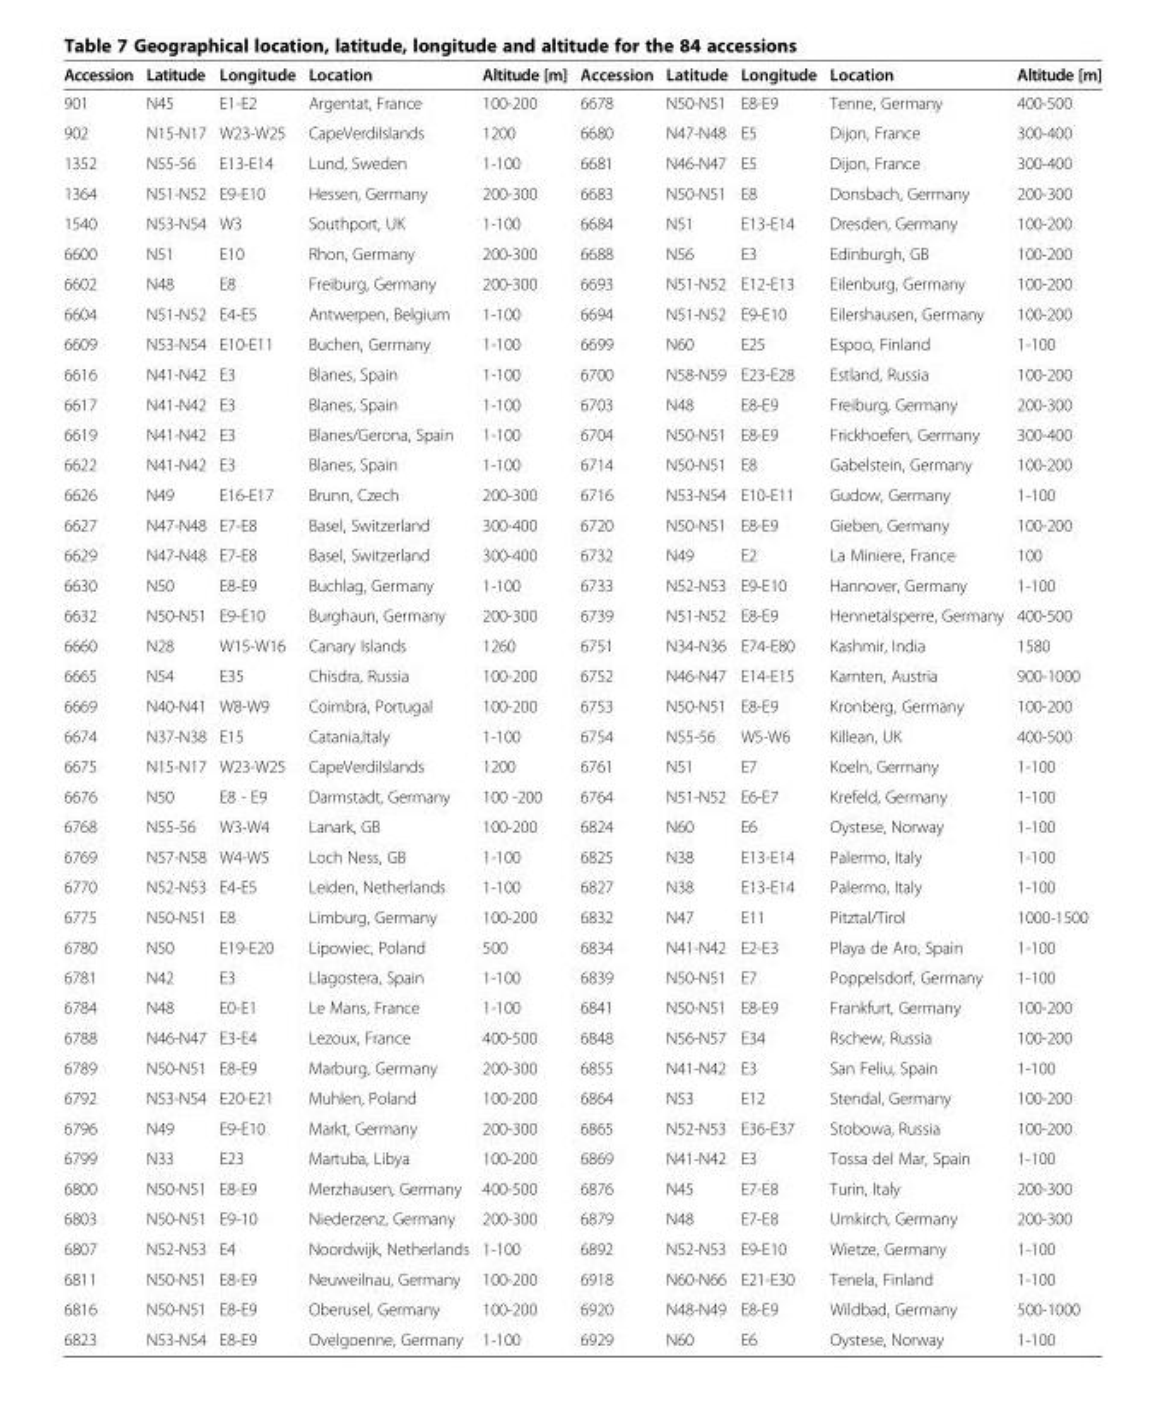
<table><thead><tr><td>Accession</td><td>Latitude</td><td>Longitude</td><td>Location</td><td>Altitude [m]</td><td>Accession</td><td>Latitude</td><td>Longitude</td><td>Location</td><td>Altitude [m]</td></tr></thead><tbody><tr><td>901</td><td>N45</td><td>E1-E2</td><td>Argentat, France</td><td>100-200</td><td>6678</td><td>N50-N51</td><td>E8-E9</td><td>Tenne, Germany</td><td>400-500</td></tr><tr><td>902</td><td>N15-N17</td><td>W23-W25</td><td>CapeVerdiIslands</td><td>1200</td><td>6680</td><td>N47-N48</td><td>E5</td><td>Dijon, France</td><td>300-400</td></tr><tr><td>1352</td><td>N55-56</td><td>E13-E14</td><td>Lund, Sweden</td><td>1-100</td><td>6681</td><td>N46-N47</td><td>E5</td><td>Dijon, France</td><td>300-400</td></tr><tr><td>1364</td><td>N51-N52</td><td>E9-E10</td><td>Hessen, Germany</td><td>200-300</td><td>6683</td><td>N50-N51</td><td>E8</td><td>Donsbach, Germany</td><td>200-300</td></tr><tr><td>1540</td><td>N53-N54</td><td>W3</td><td>Southport, UK</td><td>1-100</td><td>6684</td><td>N51</td><td>E13-E14</td><td>Dresden, Germany</td><td>100-200</td></tr><tr><td>6600</td><td>N51</td><td>E10</td><td>Rhon, Germany</td><td>200-300</td><td>6688</td><td>N56</td><td>E3</td><td>Edinburgh, GB</td><td>100-200</td></tr><tr><td>6602</td><td>N48</td><td>E8</td><td>Freiburg, Germany</td><td>200-300</td><td>6693</td><td>N51-N52</td><td>E12-E13</td><td>Eilenburg, Germany</td><td>100-200</td></tr><tr><td>6604</td><td>N51-N52</td><td>E4-E5</td><td>Antwerpen, Belgium</td><td>1-100</td><td>6694</td><td>N51-N52</td><td>E9-E10</td><td>Eilershausen, Germany</td><td>100-200</td></tr><tr><td>6609</td><td>N53-N54</td><td>E10-E11</td><td>Buchen, Germany</td><td>1-100</td><td>6699</td><td>N60</td><td>E25</td><td>Espoo, Finland</td><td>1-100</td></tr><tr><td>6616</td><td>N41-N42</td><td>E3</td><td>Blanes, Spain</td><td>1-100</td><td>6700</td><td>N58-N59</td><td>E23-E28</td><td>Estland, Russia</td><td>100-200</td></tr><tr><td>6617</td><td>N41-N42</td><td>E3</td><td>Blanes, Spain</td><td>1-100</td><td>6703</td><td>N48</td><td>E8-E9</td><td>Freiburg, Germany</td><td>200-300</td></tr><tr><td>6619</td><td>N41-N42</td><td>E3</td><td>Blanes/Gerona, Spain</td><td>1-100</td><td>6704</td><td>N50-N51</td><td>E8-E9</td><td>Frickhoefen, Germany</td><td>300-400</td></tr><tr><td>6622</td><td>N41-N42</td><td>E3</td><td>Blanes, Spain</td><td>1-100</td><td>6714</td><td>N50-N51</td><td>E8</td><td>Gabelstein, Germany</td><td>100-200</td></tr><tr><td>6626</td><td>N49</td><td>E16-E17</td><td>Brunn, Czech</td><td>200-300</td><td>6716</td><td>N53-N54</td><td>E10-E11</td><td>Gudow, Germany</td><td>1-100</td></tr><tr><td>6627</td><td>N47-N48</td><td>E7-E8</td><td>Basel, Switzerland</td><td>300-400</td><td>6720</td><td>N50-N51</td><td>E8-E9</td><td>Gieben, Germany</td><td>100-200</td></tr><tr><td>6629</td><td>N47-N48</td><td>E7-E8</td><td>Basel, Switzerland</td><td>300-400</td><td>6732</td><td>N49</td><td>E2</td><td>La Miniere, France</td><td>100</td></tr><tr><td>6630</td><td>N50</td><td>E8-E9</td><td>Buchlag, Germany</td><td>1-100</td><td>6733</td><td>N52-N53</td><td>E9-E10</td><td>Hannover, Germany</td><td>1-100</td></tr><tr><td>6632</td><td>N50-N51</td><td>E9-E10</td><td>Burghaun, Germany</td><td>200-300</td><td>6739</td><td>N51-N52</td><td>E8-E9</td><td>Hennetalsperre, Germany</td><td>400-500</td></tr><tr><td>6660</td><td>N28</td><td>W15-W16</td><td>Canary Islands</td><td>1260</td><td>6751</td><td>N34-N36</td><td>E74-E80</td><td>Kashmir, India</td><td>1580</td></tr><tr><td>6665</td><td>N54</td><td>E35</td><td>Chisdra, Russia</td><td>100-200</td><td>6752</td><td>N46-N47</td><td>E14-E15</td><td>Karnten, Austria</td><td>900-1000</td></tr><tr><td>6669</td><td>N40-N41</td><td>W8-W9</td><td>Coimbra, Portugal</td><td>100-200</td><td>6753</td><td>N50-N51</td><td>E8-E9</td><td>Kronberg, Germany</td><td>100-200</td></tr><tr><td>6674</td><td>N37-N38</td><td>E15</td><td>Catania,Italy</td><td>1-100</td><td>6754</td><td>N55-56</td><td>W5-W6</td><td>Killean, UK</td><td>400-500</td></tr><tr><td>6675</td><td>N15-N17</td><td>W23-W25</td><td>CapeVerdiIslands</td><td>1200</td><td>6761</td><td>N51</td><td>E7</td><td>Koeln, Germany</td><td>1-100</td></tr><tr><td>6676</td><td>N50</td><td>E8 - E9</td><td>Darmstadt, Germany</td><td>100 -200</td><td>6764</td><td>N51-N52</td><td>E6-E7</td><td>Krefeld, Germany</td><td>1-100</td></tr><tr><td>6768</td><td>N55-56</td><td>W3-W4</td><td>Lanark, GB</td><td>100-200</td><td>6824</td><td>N60</td><td>E6</td><td>Oystese, Norway</td><td>1-100</td></tr><tr><td>6769</td><td>N57-N58</td><td>W4-W5</td><td>Loch Ness, GB</td><td>1-100</td><td>6825</td><td>N38</td><td>E13-E14</td><td>Palermo, Italy</td><td>1-100</td></tr><tr><td>6770</td><td>N52-N53</td><td>E4-E5</td><td>Leiden, Netherlands</td><td>1-100</td><td>6827</td><td>N38</td><td>E13-E14</td><td>Palermo, Italy</td><td>1-100</td></tr><tr><td>6775</td><td>N50-N51</td><td>E8</td><td>Limburg, Germany</td><td>100-200</td><td>6832</td><td>N47</td><td>E11</td><td>Pitztal/Tirol</td><td>1000-1500</td></tr><tr><td>6780</td><td>N50</td><td>E19-E20</td><td>Lipowiec, Poland</td><td>500</td><td>6834</td><td>N41-N42</td><td>E2-E3</td><td>Playa de Aro, Spain</td><td>1-100</td></tr><tr><td>6781</td><td>N42</td><td>E3</td><td>Llagostera, Spain</td><td>1-100</td><td>6839</td><td>N50-N51</td><td>E7</td><td>Poppelsdorf, Germany</td><td>1-100</td></tr><tr><td>6784</td><td>N48</td><td>E0-E1</td><td>Le Mans, France</td><td>1-100</td><td>6841</td><td>N50-N51</td><td>E8-E9</td><td>Frankfurt, Germany</td><td>100-200</td></tr><tr><td>6788</td><td>N46-N47</td><td>E3-E4</td><td>Lezoux, France</td><td>400-500</td><td>6848</td><td>N56-N57</td><td>E34</td><td>Rschew, Russia</td><td>100-200</td></tr><tr><td>6789</td><td>N50-N51</td><td>E8-E9</td><td>Marburg, Germany</td><td>200-300</td><td>6855</td><td>N41-N42</td><td>E3</td><td>San Feliu, Spain</td><td>1-100</td></tr><tr><td>6792</td><td>N53-N54</td><td>E20-E21</td><td>Muhlen, Poland</td><td>100-200</td><td>6864</td><td>N53</td><td>E12</td><td>Stendal, Germany</td><td>100-200</td></tr><tr><td>6796</td><td>N49</td><td>E9-E10</td><td>Markt, Germany</td><td>200-300</td><td>6865</td><td>N52-N53</td><td>E36-E37</td><td>Stobowa, Russia</td><td>100-200</td></tr><tr><td>6799</td><td>N33</td><td>E23</td><td>Martuba, Libya</td><td>100-200</td><td>6869</td><td>N41-N42</td><td>E3</td><td>Tossa del Mar, Spain</td><td>1-100</td></tr><tr><td>6800</td><td>N50-N51</td><td>E8-E9</td><td>Merzhausen, Germany</td><td>400-500</td><td>6876</td><td>N45</td><td>E7-E8</td><td>Turin, Italy</td><td>200-300</td></tr><tr><td>6803</td><td>N50-N51</td><td>E9-10</td><td>Niederzenz, Germany</td><td>200-300</td><td>6879</td><td>N48</td><td>E7-E8</td><td>Umkirch, Germany</td><td>200-300</td></tr><tr><td>6807</td><td>N52-N53</td><td>E4</td><td>Noordwijk, Netherlands</td><td>1-100</td><td>6892</td><td>N52-N53</td><td>E9-E10</td><td>Wietze, Germany</td><td>1-100</td></tr><tr><td>6811</td><td>N50-N51</td><td>E8-E9</td><td>Neuweilnau, Germany</td><td>100-200</td><td>6918</td><td>N60-N66</td><td>E21-E30</td><td>Tenela, Finland</td><td>1-100</td></tr><tr><td>6816</td><td>N50-N51</td><td>E8-E9</td><td>Oberusel, Germany</td><td>100-200</td><td>6920</td><td>N48-N49</td><td>E8-E9</td><td>Wildbad, Germany</td><td>500-1000</td></tr><tr><td>6823</td><td>N53-N54</td><td>E8-E9</td><td>Ovelgoenne, Germany</td><td>1-100</td><td>6929</td><td>N60</td><td>E6</td><td>Oystese, Norway</td><td>1-100</td></tr></tbody></table>